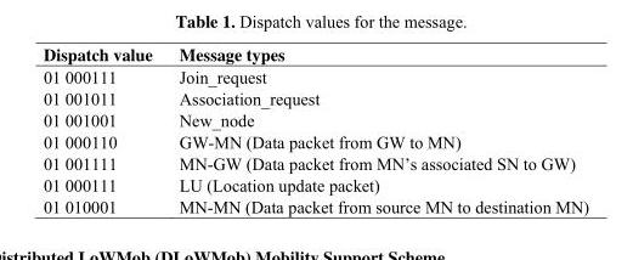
<table><thead><tr><td>Dispatch value</td><td>Message types</td></tr></thead><tbody><tr><td>01 000111</td><td>Join_request</td></tr><tr><td>01 001011</td><td>Association_request</td></tr><tr><td>01 001001</td><td>New_node</td></tr><tr><td>01 000110</td><td>GW-MN (Data packet from GW to MN)</td></tr><tr><td>01 001111</td><td>MN-GW (Data packet from MN’s associated SN to GW)</td></tr><tr><td>01 000111</td><td>LU (Location update packet)</td></tr><tr><td>01 010001</td><td>MN-MN (Data packet from source MN to destination MN)</td></tr></tbody></table>